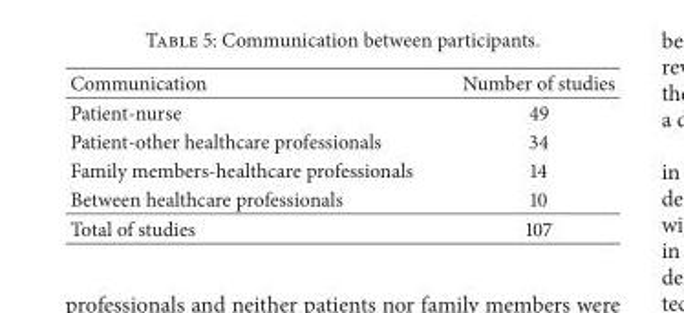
<table><thead><tr><td>Communication</td><td>Number of studies</td></tr></thead><tbody><tr><td>Patient-nurse</td><td>49</td></tr><tr><td>Patient-other healthcare professionals</td><td>34</td></tr><tr><td>Family members-healthcare professionals</td><td>14</td></tr><tr><td>Between healthcare professionals</td><td>10</td></tr><tr><td>Total of studies</td><td>107</td></tr></tbody></table>